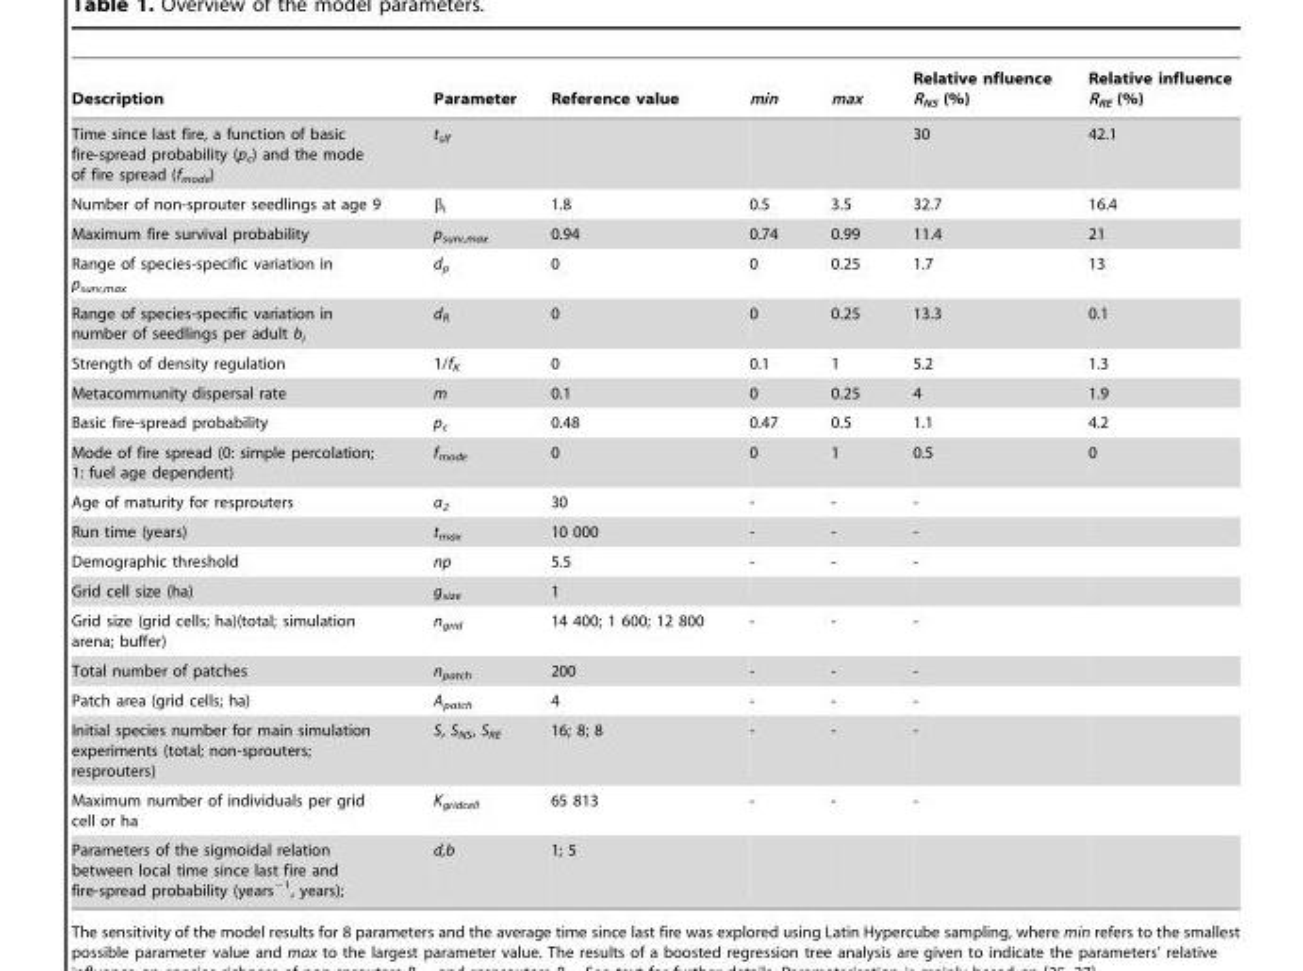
<table><thead><tr><td>Description</td><td>Parameter</td><td>Reference value</td><td>min</td><td>max</td><td>Relative nfluence R<sub>NS</sub> (%)</td><td>Relative influence R<sub>RE</sub> (%)</td></tr></thead><tbody><tr><td>Time since last fire, a function of basic fire-spread probability (p<sub>c</sub>) and the mode of fire spread (f<sub>mode</sub>)</td><td>t<sub>slf</sub></td><td></td><td></td><td></td><td>30</td><td>42.1</td></tr><tr><td>Number of non-sprouter seedlings at age 9</td><td>β<sub>i</sub></td><td>1.8</td><td>0.5</td><td>3.5</td><td>32.7</td><td>16.4</td></tr><tr><td>Maximum fire survival probability</td><td>p<sub>surv,max</sub></td><td>0.94</td><td>0.74</td><td>0.99</td><td>11.4</td><td>21</td></tr><tr><td>Range of species-specific variation in p<sub>surv,max</sub></td><td>d<sub>p</sub></td><td>0</td><td>0</td><td>0.25</td><td>1.7</td><td>13</td></tr><tr><td>Range of species-specific variation in number of seedlings per adult b<sub>i</sub></td><td>d<sub>R</sub></td><td>0</td><td>0</td><td>0.25</td><td>13.3</td><td>0.1</td></tr><tr><td>Strength of density regulation</td><td>1/f<sub>K</sub></td><td>0</td><td>0.1</td><td>1</td><td>5.2</td><td>1.3</td></tr><tr><td>Metacommunity dispersal rate</td><td>m</td><td>0.1</td><td>0</td><td>0.25</td><td>4</td><td>1.9</td></tr><tr><td>Basic fire-spread probability</td><td>p<sub>c</sub></td><td>0.48</td><td>0.47</td><td>0.5</td><td>1.1</td><td>4.2</td></tr><tr><td>Mode of fire spread (0: simple percolation; 1: fuel age dependent)</td><td>f<sub>mode</sub></td><td>0</td><td>0</td><td>1</td><td>0.5</td><td>0</td></tr><tr><td>Age of maturity for resprouters</td><td>a<sub>2</sub></td><td>30</td><td>-</td><td>-</td><td>-</td><td></td></tr><tr><td>Run time (years)</td><td>t<sub>max</sub></td><td>10 000</td><td>-</td><td>-</td><td>-</td><td></td></tr><tr><td>Demographic threshold</td><td>np</td><td>5.5</td><td>-</td><td>-</td><td>-</td><td></td></tr><tr><td>Grid cell size (ha)</td><td>g<sub>size</sub></td><td>1</td><td></td><td></td><td></td><td></td></tr><tr><td>Grid size (grid cells; ha)(total; simulation arena; buffer)</td><td>n<sub>grid</sub></td><td>14 400; 1 600; 12 800</td><td>-</td><td>-</td><td>-</td><td></td></tr><tr><td>Total number of patches</td><td>n<sub>patch</sub></td><td>200</td><td>-</td><td>-</td><td>-</td><td></td></tr><tr><td>Patch area (grid cells; ha)</td><td>A<sub>patch</sub></td><td>4</td><td>-</td><td>-</td><td>-</td><td></td></tr><tr><td>Initial species number for main simulation experiments (total; non-sprouters; resprouters)</td><td>S, S<sub>NS</sub>, S<sub>RE</sub></td><td>16; 8; 8</td><td>-</td><td>-</td><td>-</td><td></td></tr><tr><td>Maximum number of individuals per grid cell or ha</td><td>K<sub>gridcell</sub></td><td>65 813</td><td>-</td><td>-</td><td>-</td><td></td></tr><tr><td>Parameters of the sigmoidal relation between local time since last fire and fire-spread probability (years<sup>−1</sup>, years);</td><td>d,b</td><td>1; 5</td><td></td><td></td><td></td><td></td></tr></tbody></table>